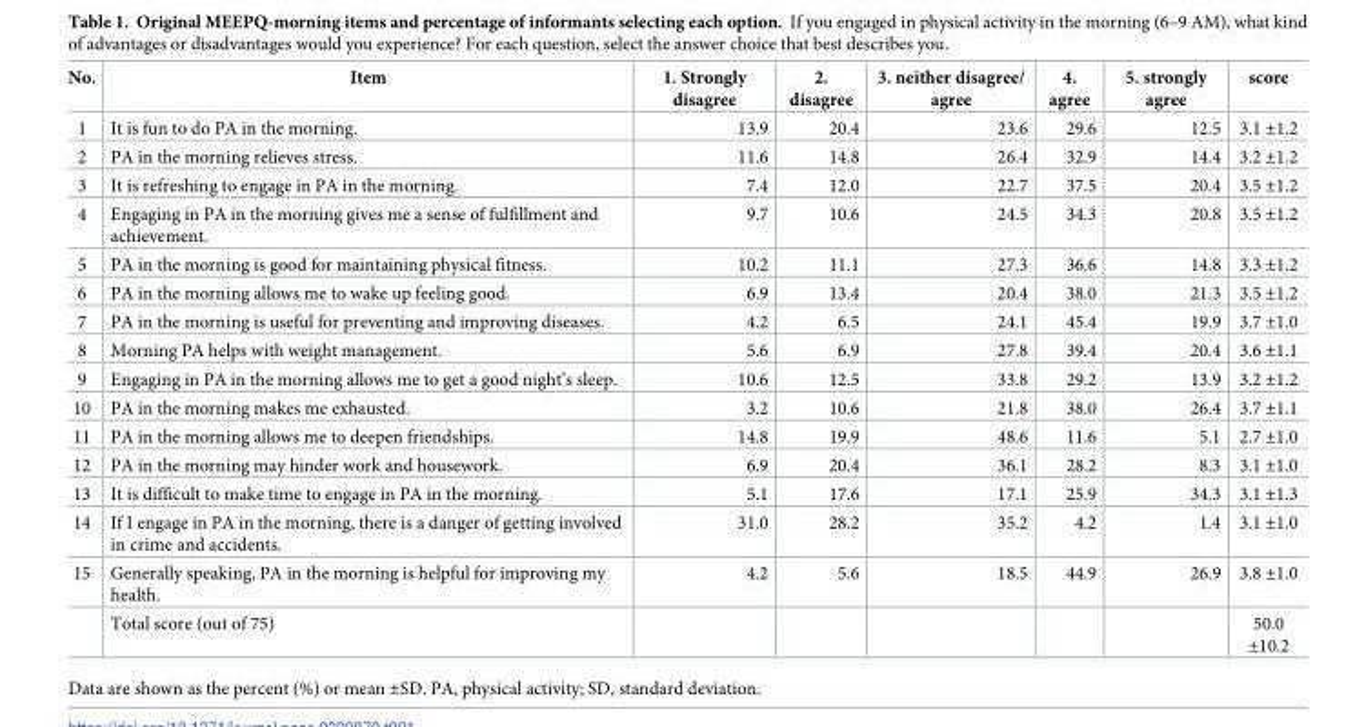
<table><thead><tr><td>No.</td><td>Item</td><td>1. Strongly disagree</td><td>2. disagree</td><td>3. neither disagree/ agree</td><td>4. agree</td><td>5. strongly agree</td><td>score</td></tr></thead><tbody><tr><td>1</td><td>It is fun to do PA in the morning.</td><td>13.9</td><td>20.4</td><td>23.6</td><td>29.6</td><td>12.5</td><td>3.1 ±1.2</td></tr><tr><td>2</td><td>PA in the morning relieves stress.</td><td>11.6</td><td>14.8</td><td>26.4</td><td>32.9</td><td>14.4</td><td>3.2 ±1.2</td></tr><tr><td>3</td><td>It is refreshing to engage in PA in the morning.</td><td>7.4</td><td>12.0</td><td>22.7</td><td>37.5</td><td>20.4</td><td>3.5 ±1.2</td></tr><tr><td>4</td><td>Engaging in PA in the morning gives me a sense of fulfillment and achievement.</td><td>9.7</td><td>10.6</td><td>24.5</td><td>34.3</td><td>20.8</td><td>3.5 ±1.2</td></tr><tr><td>5</td><td>PA in the morning is good for maintaining physical fitness.</td><td>10.2</td><td>11.1</td><td>27.3</td><td>36.6</td><td>14.8</td><td>3.3 ±1.2</td></tr><tr><td>6</td><td>PA in the morning allows me to wake up feeling good.</td><td>6.9</td><td>13.4</td><td>20.4</td><td>38.0</td><td>21.3</td><td>3.5 ±1.2</td></tr><tr><td>7</td><td>PA in the morning is useful for preventing and improving diseases.</td><td>4.2</td><td>6.5</td><td>24.1</td><td>45.4</td><td>19.9</td><td>3.7 ±1.0</td></tr><tr><td>8</td><td>Morning PA helps with weight management.</td><td>5.6</td><td>6.9</td><td>27.8</td><td>39.4</td><td>20.4</td><td>3.6 ±1.1</td></tr><tr><td>9</td><td>Engaging in PA in the morning allows me to get a good night’s sleep.</td><td>10.6</td><td>12.5</td><td>33.8</td><td>29.2</td><td>13.9</td><td>3.2 ±1.2</td></tr><tr><td>10</td><td>PA in the morning makes me exhausted.</td><td>3.2</td><td>10.6</td><td>21.8</td><td>38.0</td><td>26.4</td><td>3.7 ±1.1</td></tr><tr><td>11</td><td>PA in the morning allows me to deepen friendships.</td><td>14.8</td><td>19.9</td><td>48.6</td><td>11.6</td><td>5.1</td><td>2.7 ±1.0</td></tr><tr><td>12</td><td>PA in the morning may hinder work and housework.</td><td>6.9</td><td>20.4</td><td>36.1</td><td>28.2</td><td>8.3</td><td>3.1 ±1.0</td></tr><tr><td>13</td><td>It is difficult to make time to engage in PA in the morning.</td><td>5.1</td><td>17.6</td><td>17.1</td><td>25.9</td><td>34.3</td><td>3.1 ±1.3</td></tr><tr><td>14</td><td>If I engage in PA in the morning, there is a danger of getting involved in crime and accidents.</td><td>31.0</td><td>28.2</td><td>35.2</td><td>4.2</td><td>1.4</td><td>3.1 ±1.0</td></tr><tr><td rowspan="2">15</td><td>Generally speaking, PA in the morning is helpful for improving my health.</td><td>4.2</td><td>5.6</td><td>18.5</td><td>44.9</td><td>26.9</td><td>3.8 ±1.0</td></tr><tr><td>Total score (out of 75)</td><td></td><td></td><td></td><td></td><td></td><td>50.0 ±10.2</td></tr></tbody></table>